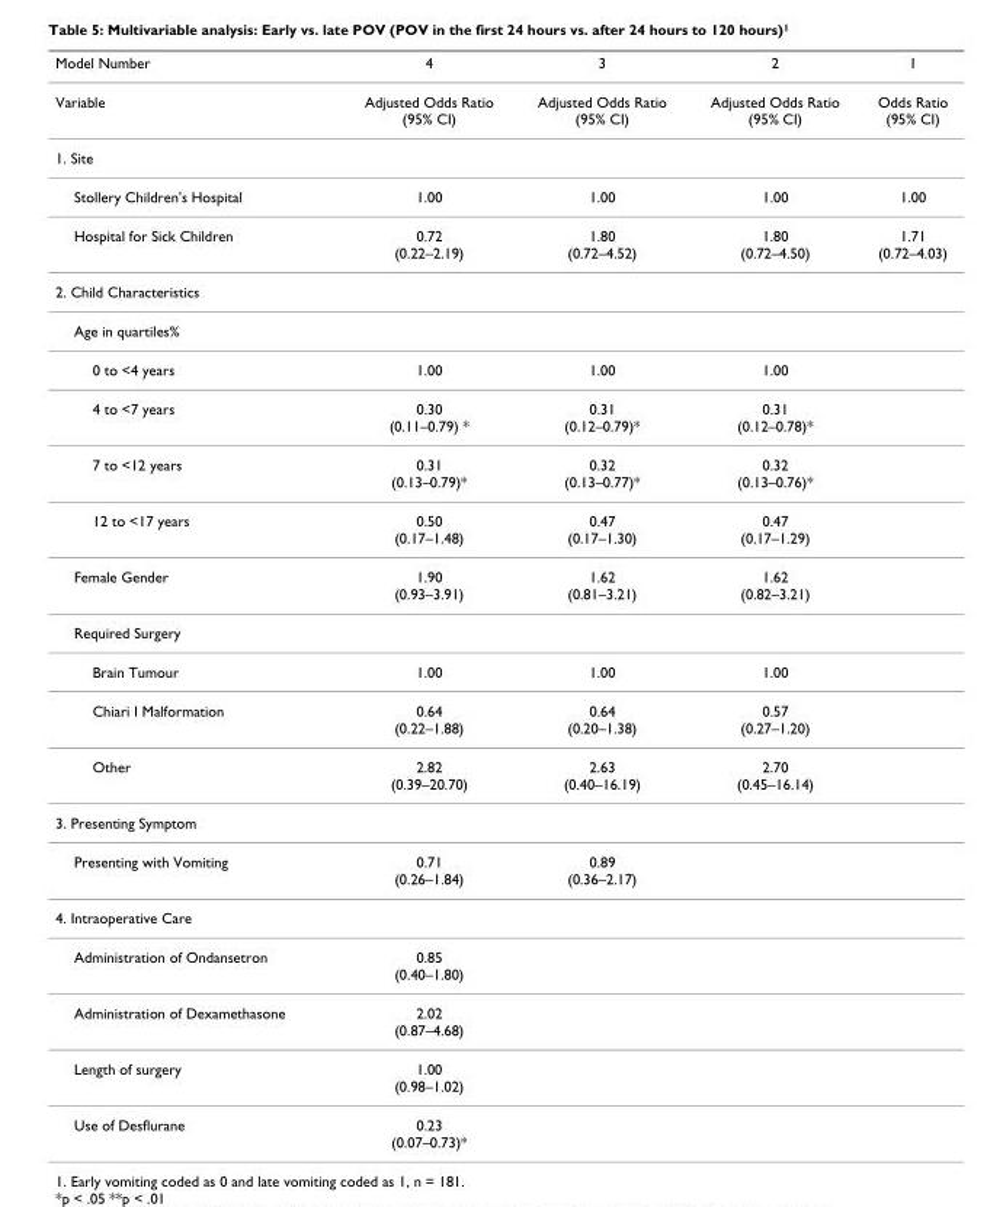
<table><thead><tr><td>Model Number</td><td>4</td><td>3</td><td>2</td><td>1</td></tr></thead><tbody><tr><td>Variable</td><td>Adjusted Odds Ratio (95% CI)</td><td>Adjusted Odds Ratio (95% CI)</td><td>Adjusted Odds Ratio (95% CI)</td><td>Odds Ratio (95% CI)</td></tr><tr><td colspan="5">1. Site</td></tr><tr><td>Stollery Children&#x27;s Hospital</td><td>1.00</td><td>1.00</td><td>1.00</td><td>1.00</td></tr><tr><td>Hospital for Sick Children</td><td>0.72 (0.22–2.19)</td><td>1.80 (0.72–4.52)</td><td>1.80 (0.72–4.50)</td><td>1.71 (0.72–4.03)</td></tr><tr><td colspan="5">2. Child Characteristics</td></tr><tr><td colspan="5">Age in quartiles%</td></tr><tr><td>0 to &lt;4 years</td><td>1.00</td><td>1.00</td><td>1.00</td><td></td></tr><tr><td>4 to &lt;7 years</td><td>0.30 (0.11–0.79) *</td><td>0.31 (0.12–0.79)*</td><td>0.31 (0.12–0.78)*</td><td></td></tr><tr><td>7 to &lt;12 years</td><td>0.31 (0.13–0.79)*</td><td>0.32 (0.13–0.77)*</td><td>0.32 (0.13–0.76)*</td><td></td></tr><tr><td>12 to &lt;17 years</td><td>0.50 (0.17–1.48)</td><td>0.47 (0.17–1.30)</td><td>0.47 (0.17–1.29)</td><td></td></tr><tr><td>Female Gender</td><td>1.90 (0.93–3.91)</td><td>1.62 (0.81–3.21)</td><td>1.62 (0.82–3.21)</td><td></td></tr><tr><td colspan="5">Required Surgery</td></tr><tr><td>Brain Tumour</td><td>1.00</td><td>1.00</td><td>1.00</td><td></td></tr><tr><td>Chiari I Malformation</td><td>0.64 (0.22–1.88)</td><td>0.64 (0.20–1.38)</td><td>0.57 (0.27–1.20)</td><td></td></tr><tr><td>Other</td><td>2.82 (0.39–20.70)</td><td>2.63 (0.40–16.19)</td><td>2.70 (0.45–16.14)</td><td></td></tr><tr><td colspan="5">3. Presenting Symptom</td></tr><tr><td>Presenting with Vomiting</td><td>0.71 (0.26–1.84)</td><td>0.89 (0.36–2.17)</td><td></td><td></td></tr><tr><td colspan="5">4. Intraoperative Care</td></tr><tr><td>Administration of Ondansetron</td><td>0.85 (0.40–1.80)</td><td></td><td></td><td></td></tr><tr><td>Administration of Dexamethasone</td><td>2.02 (0.87–4.68)</td><td></td><td></td><td></td></tr><tr><td>Length of surgery</td><td>1.00 (0.98–1.02)</td><td></td><td></td><td></td></tr><tr><td>Use of Desflurane</td><td>0.23 (0.07–0.73)*</td><td></td><td></td><td></td></tr></tbody></table>